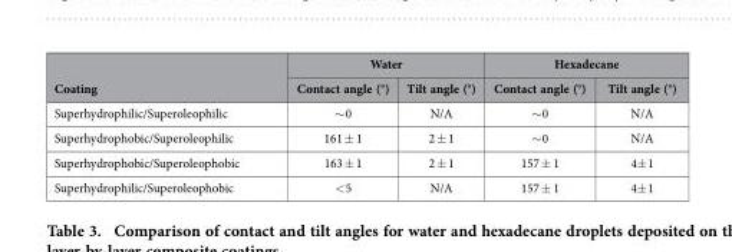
<table><thead><tr><td rowspan="2">Coating</td><td colspan="2">Water</td><td colspan="2">Hexadecane</td></tr><tr><td>Contact angle (°)</td><td>Tilt angle (°)</td><td>Contact angle (°)</td><td>Tilt angle (°)</td></tr></thead><tbody><tr><td>Superhydrophilic/Superoleophilic</td><td>∼ 0</td><td>N/A</td><td>∼ 0</td><td>N/A</td></tr><tr><td>Superhydrophobic/Superoleophilic</td><td>161 ± 1</td><td>2 ± 1</td><td>∼ 0</td><td>N/A</td></tr><tr><td>Superhydrophobic/Superoleophobic</td><td>163 ± 1</td><td>2 ± 1</td><td>157 ± 1</td><td>4± 1</td></tr><tr><td>Superhydrophilic/Superoleophobic</td><td>&lt; 5</td><td>N/A</td><td>157 ± 1</td><td>4± 1</td></tr></tbody></table>